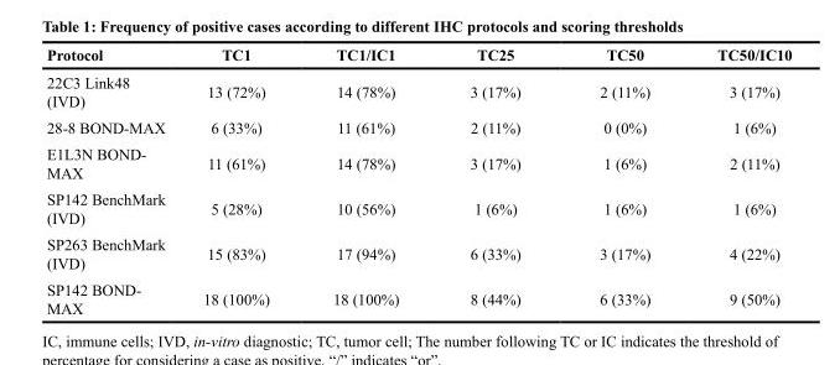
<table><thead><tr><td>Protocol</td><td>TC1</td><td>TC1/IC1</td><td>TC25</td><td>TC50</td><td>TC50/IC10</td></tr></thead><tbody><tr><td>22C3 Link48 (IVD)</td><td>13 (72%)</td><td>14 (78%)</td><td>3 (17%)</td><td>2 (11%)</td><td>3 (17%)</td></tr><tr><td>28-8 BOND-MAX</td><td>6 (33%)</td><td>11 (61%)</td><td>2 (11%)</td><td>0 (0%)</td><td>1 (6%)</td></tr><tr><td>E1L3N BOND- MAX</td><td>11 (61%)</td><td>14 (78%)</td><td>3 (17%)</td><td>1 (6%)</td><td>2 (11%)</td></tr><tr><td>SP142 BenchMark (IVD)</td><td>5 (28%)</td><td>10 (56%)</td><td>1 (6%)</td><td>1 (6%)</td><td>1 (6%)</td></tr><tr><td>SP263 BenchMark (IVD)</td><td>15 (83%)</td><td>17 (94%)</td><td>6 (33%)</td><td>3 (17%)</td><td>4 (22%)</td></tr><tr><td>SP142 BOND- MAX</td><td>18 (100%)</td><td>18 (100%)</td><td>8 (44%)</td><td>6 (33%)</td><td>9 (50%)</td></tr></tbody></table>